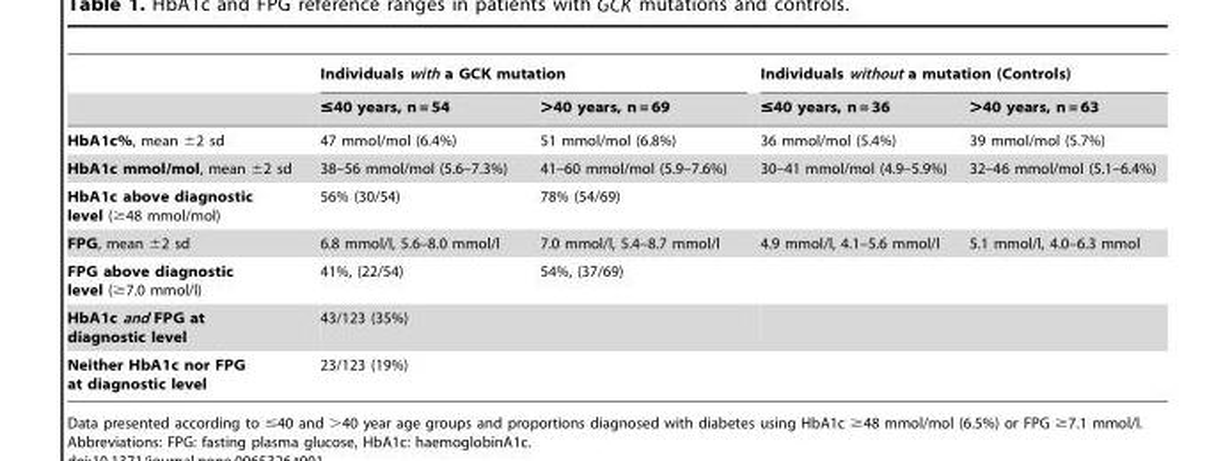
<table><thead><tr><td rowspan="2"></td><td colspan="2">Individuals with a GCK mutation</td><td colspan="2">Individuals without a mutation (Controls)</td></tr><tr><td>≤40 years, n = 54</td><td>&gt;40 years, n = 69</td><td>≤40 years, n = 36</td><td>&gt;40 years, n = 63</td></tr></thead><tbody><tr><td>HbA1c%, mean ±2 sd</td><td>47 mmol/mol (6.4%)</td><td>51 mmol/mol (6.8%)</td><td>36 mmol/mol (5.4%)</td><td>39 mmol/mol (5.7%)</td></tr><tr><td>HbA1c mmol/mol, mean ±2 sd</td><td>38–56 mmol/mol (5.6–7.3%)</td><td>41–60 mmol/mol (5.9–7.6%)</td><td>30–41 mmol/mol (4.9–5.9%)</td><td>32–46 mmol/mol (5.1–6.4%)</td></tr><tr><td>HbA1c above diagnostic level (≥48 mmol/mol)</td><td>56% (30/54)</td><td>78% (54/69)</td><td colspan="2"></td></tr><tr><td>FPG, mean ±2 sd</td><td>6.8 mmol/l, 5.6–8.0 mmol/l</td><td>7.0 mmol/l, 5.4–8.7 mmol/l</td><td>4.9 mmol/l, 4.1–5.6 mmol/l</td><td>5.1 mmol/l, 4.0–6.3 mmol</td></tr><tr><td>FPG above diagnostic level (≥7.0 mmol/l)</td><td>41%, (22/54)</td><td>54%, (37/69)</td><td colspan="2"></td></tr><tr><td>HbA1c and FPG at diagnostic level</td><td colspan="2">43/123 (35%)</td><td colspan="2"></td></tr><tr><td>Neither HbA1c nor FPG at diagnostic level</td><td colspan="2">23/123 (19%)</td><td colspan="2"></td></tr></tbody></table>